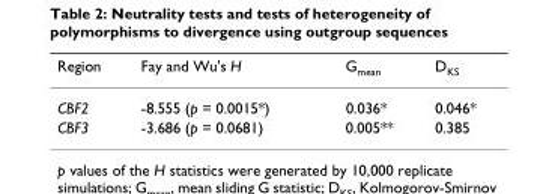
<table><thead><tr><td>Region</td><td>Fay and Wu&#x27;s H</td><td>G<sub>mean</sub></td><td>D<sub>KS</sub></td></tr></thead><tbody><tr><td>CBF2</td><td>-8.555 (p = 0.0015*)</td><td>0.036*</td><td>0.046*</td></tr><tr><td>CBF3</td><td>-3.686 (p = 0.0681)</td><td>0.005**</td><td>0.385</td></tr></tbody></table>